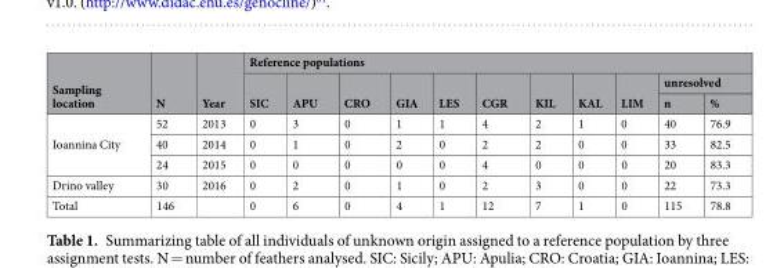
<table><thead><tr><td rowspan="3">Sampling location</td><td rowspan="3">N</td><td rowspan="3">Year</td><td colspan="11">Reference populations</td></tr><tr><td rowspan="2">SIC</td><td rowspan="2">APU</td><td rowspan="2">CRO</td><td rowspan="2">GIA</td><td rowspan="2">LES</td><td rowspan="2">CGR</td><td rowspan="2">KIL</td><td rowspan="2">KAL</td><td rowspan="2">LIM</td><td colspan="2">unresolved</td></tr><tr><td>n</td><td>%</td></tr></thead><tbody><tr><td rowspan="3">Ioannina City</td><td>52</td><td>2013</td><td>0</td><td>3</td><td>0</td><td>1</td><td>1</td><td>4</td><td>2</td><td>1</td><td>0</td><td>40</td><td>76.9</td></tr><tr><td>40</td><td>2014</td><td>0</td><td>1</td><td>0</td><td>2</td><td>0</td><td>2</td><td>2</td><td>0</td><td>0</td><td>33</td><td>82.5</td></tr><tr><td>24</td><td>2015</td><td>0</td><td>0</td><td>0</td><td>0</td><td>0</td><td>4</td><td>0</td><td>0</td><td>0</td><td>20</td><td>83.3</td></tr><tr><td>Drino valley</td><td>30</td><td>2016</td><td>0</td><td>2</td><td>0</td><td>1</td><td>0</td><td>2</td><td>3</td><td>0</td><td>0</td><td>22</td><td>73.3</td></tr><tr><td>Total</td><td>146</td><td></td><td>0</td><td>6</td><td>0</td><td>4</td><td>1</td><td>12</td><td>7</td><td>1</td><td>0</td><td>115</td><td>78.8</td></tr></tbody></table>